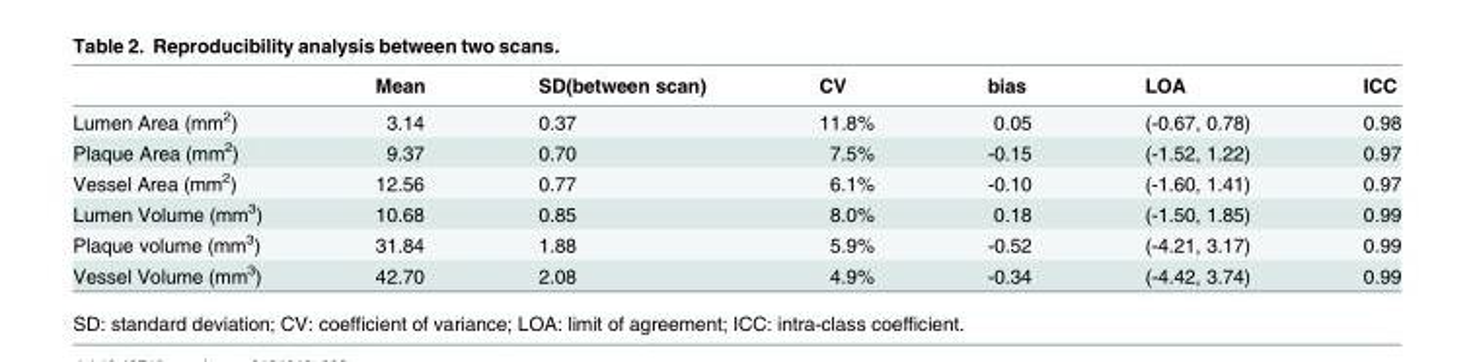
<table><thead><tr><td></td><td>Mean</td><td>SD(between scan)</td><td>CV</td><td>bias</td><td>LOA</td><td>ICC</td></tr></thead><tbody><tr><td>Lumen Area (mm<sup>2</sup>)</td><td>3.14</td><td>0.37</td><td>11.8%</td><td>0.05</td><td>(-0.67, 0.78)</td><td>0.98</td></tr><tr><td>Plaque Area (mm<sup>2</sup>)</td><td>9.37</td><td>0.70</td><td>7.5%</td><td>-0.15</td><td>(-1.52, 1.22)</td><td>0.97</td></tr><tr><td>Vessel Area (mm<sup>2</sup>)</td><td>12.56</td><td>0.77</td><td>6.1%</td><td>-0.10</td><td>(-1.60, 1.41)</td><td>0.97</td></tr><tr><td>Lumen Volume (mm<sup>3</sup>)</td><td>10.68</td><td>0.85</td><td>8.0%</td><td>0.18</td><td>(-1.50, 1.85)</td><td>0.99</td></tr><tr><td>Plaque volume (mm<sup>3</sup>)</td><td>31.84</td><td>1.88</td><td>5.9%</td><td>-0.52</td><td>(-4.21, 3.17)</td><td>0.99</td></tr><tr><td>Vessel Volume (mm<sup>3</sup>)</td><td>42.70</td><td>2.08</td><td>4.9%</td><td>-0.34</td><td>(-4.42, 3.74)</td><td>0.99</td></tr></tbody></table>